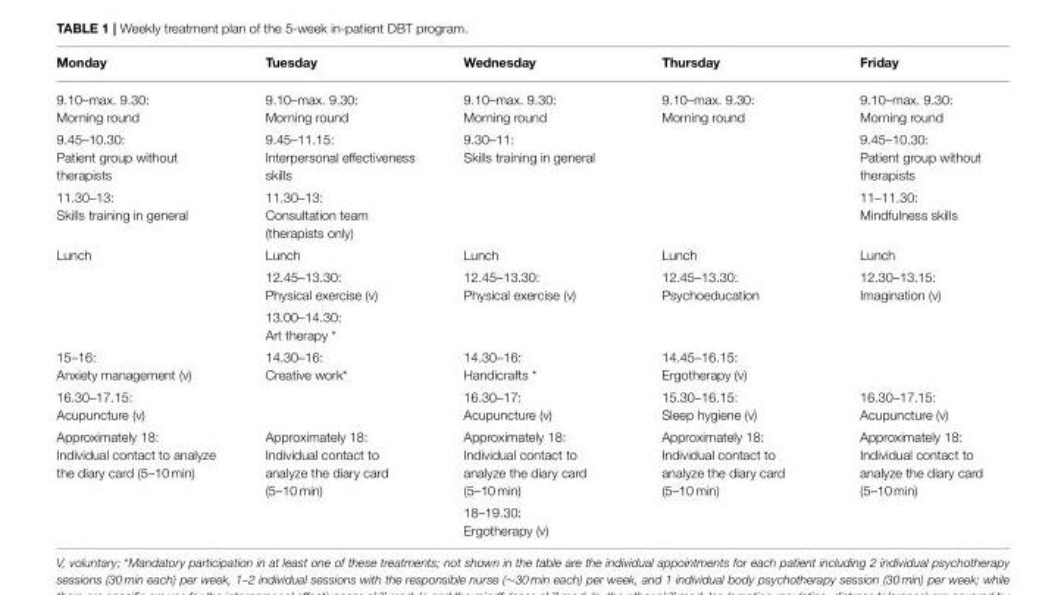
<table><thead><tr><td>Monday</td><td>Tuesday</td><td>Wednesday</td><td>Thursday</td><td>Friday</td></tr></thead><tbody><tr><td>9.10–max. 9.30: Morning round</td><td>9.10–max. 9.30: Morning round</td><td>9.10–max. 9.30: Morning round</td><td>9.10–max. 9.30: Morning round</td><td>9.10–max. 9.30: Morning round</td></tr><tr><td>9.45–10.30: Patient group without therapists</td><td>9.45–11.15: Interpersonal effectiveness skills</td><td>9.30–11: Skills training in general</td><td></td><td>9.45–10.30: Patient group without therapists</td></tr><tr><td>11.30–13: Skills training in general</td><td>11.30–13: Consultation team (therapists only)</td><td></td><td></td><td>11–11.30: Mindfulness skills</td></tr><tr><td rowspan="3">Lunch</td><td>Lunch</td><td>Lunch</td><td>Lunch</td><td>Lunch</td></tr><tr><td>12.45–13.30: Physical exercise (v)</td><td>12.45–13.30: Physical exercise (v)</td><td>12.45–13.30: Psychoeducation</td><td>12.30–13.15: Imagination (v)</td></tr><tr><td>13.00–14.30: Art therapy *</td><td></td><td></td><td></td></tr><tr><td>15–16: Anxiety management (v)</td><td>14.30–16: Creative work*</td><td>14.30–16: Handicrafts *</td><td>14.45–16.15: Ergotherapy (v)</td><td></td></tr><tr><td>16.30–17.15: Acupuncture (v)</td><td></td><td>16.30–17: Acupuncture (v)</td><td>15.30–16.15: Sleep hygiene (v)</td><td>16.30–17.15: Acupuncture (v)</td></tr><tr><td rowspan="2">Approximately 18: Individual contact to analyze the diary card (5–10 min)</td><td>Approximately 18: Individual contact to analyze the diary card (5–10 min)</td><td>Approximately 18: Individual contact to analyze the diary card (5–10 min)</td><td>Approximately 18: Individual contact to analyze the diary card (5–10 min)</td><td>Approximately 18: Individual contact to analyze the diary card (5–10 min)</td></tr><tr><td></td><td>18–19.30: Ergotherapy (v)</td><td></td><td></td></tr></tbody></table>